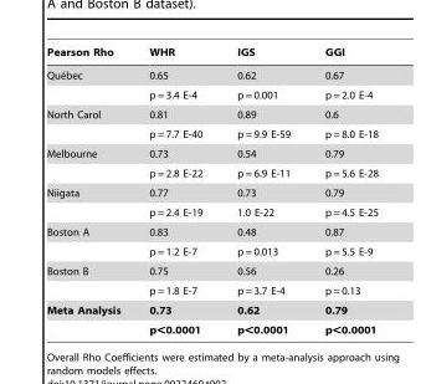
<table><thead><tr><td>Pearson Rho</td><td>WHR</td><td>IGS</td><td>GGI</td></tr></thead><tbody><tr><td rowspan="2">Que´bec</td><td>0.65</td><td>0.62</td><td>0.67</td></tr><tr><td>p = 3.4 E-4</td><td>p = 0.001</td><td>p = 2.0 E-4</td></tr><tr><td rowspan="2">North Carol</td><td>0.81</td><td>0.89</td><td>0.6</td></tr><tr><td>p = 7.7 E-40</td><td>p = 9.9 E-59</td><td>p = 8.0 E-18</td></tr><tr><td rowspan="2">Melbourne</td><td>0.73</td><td>0.54</td><td>0.79</td></tr><tr><td>p = 2.8 E-22</td><td>p = 6.9 E-11</td><td>p = 5.6 E-28</td></tr><tr><td rowspan="2">Niigata</td><td>0.77</td><td>0.73</td><td>0.79</td></tr><tr><td>p = 2.4 E-19</td><td>1.0 E-22</td><td>p = 4.5 E-25</td></tr><tr><td rowspan="2">Boston A</td><td>0.83</td><td>0.48</td><td>0.87</td></tr><tr><td>p = 1.2 E-7</td><td>p = 0.013</td><td>p = 5.5 E-9</td></tr><tr><td rowspan="2">Boston B</td><td>0.75</td><td>0.56</td><td>0.26</td></tr><tr><td>p = 1.8 E-7</td><td>p = 3.7 E-4</td><td>p = 0.13</td></tr><tr><td rowspan="2">Meta Analysis</td><td>0.73</td><td>0.62</td><td>0.79</td></tr><tr><td>p&lt;0.0001</td><td>p&lt;0.0001</td><td>p&lt;0.0001</td></tr></tbody></table>